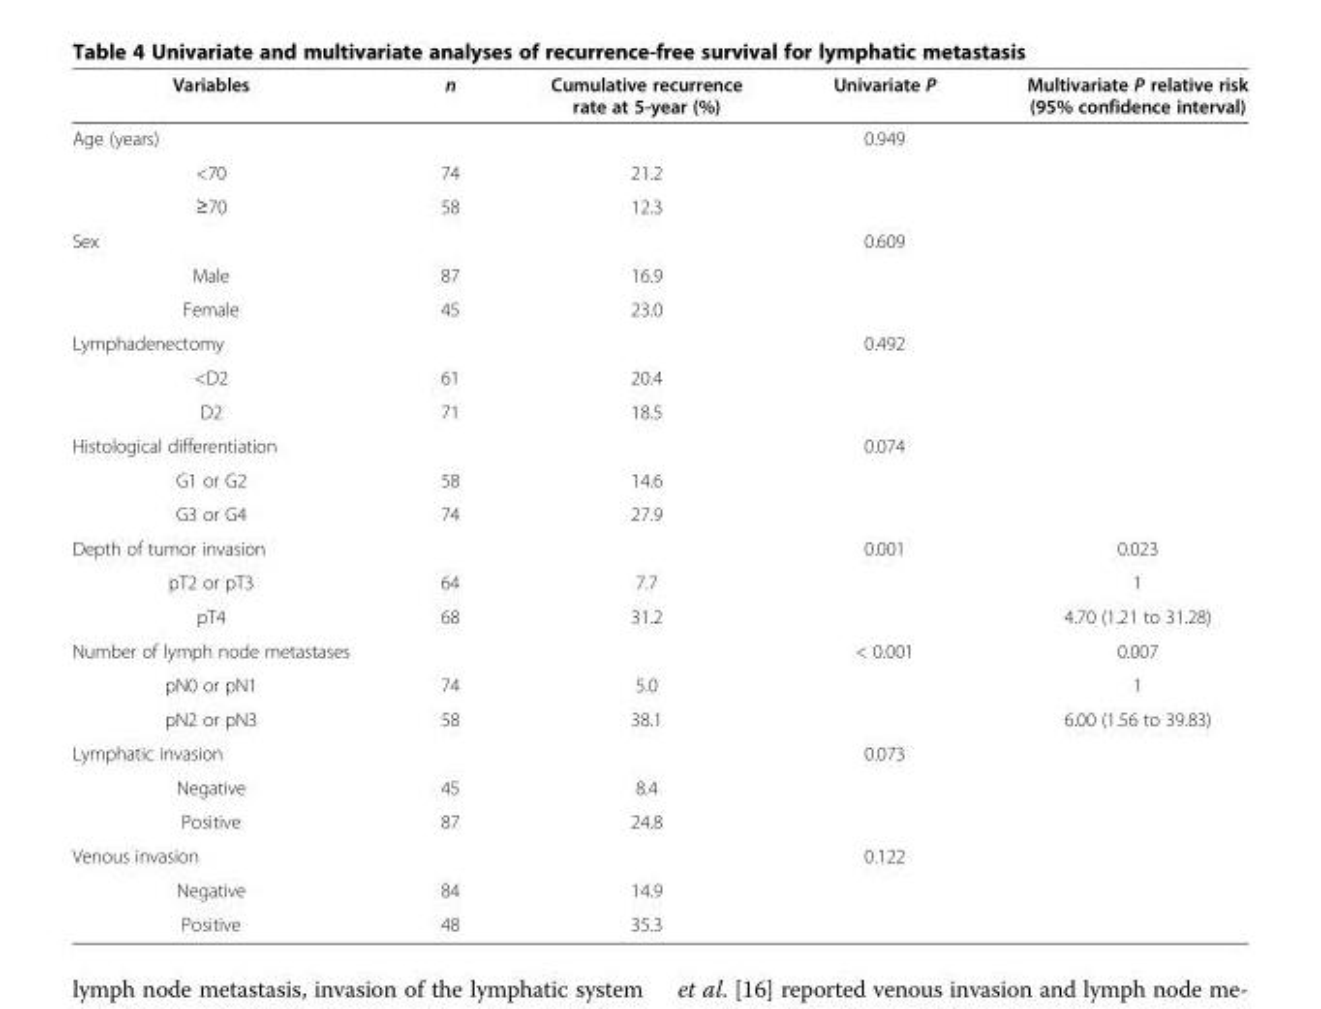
<table><thead><tr><td>Variables</td><td>n</td><td>Cumulative recurrence rate at 5-year (%)</td><td>Univariate P</td><td>Multivariate P relative risk (95% confidence interval)</td></tr></thead><tbody><tr><td>Age (years)</td><td></td><td></td><td>0.949</td><td></td></tr><tr><td>&lt;70</td><td>74</td><td>21.2</td><td></td><td></td></tr><tr><td>≥70</td><td>58</td><td>12.3</td><td></td><td></td></tr><tr><td>Sex</td><td></td><td></td><td>0.609</td><td></td></tr><tr><td>Male</td><td>87</td><td>16.9</td><td></td><td></td></tr><tr><td>Female</td><td>45</td><td>23.0</td><td></td><td></td></tr><tr><td>Lymphadenectomy</td><td></td><td></td><td>0.492</td><td></td></tr><tr><td>&lt;D2</td><td>61</td><td>20.4</td><td></td><td></td></tr><tr><td>D2</td><td>71</td><td>18.5</td><td></td><td></td></tr><tr><td>Histological differentiation</td><td></td><td></td><td>0.074</td><td></td></tr><tr><td>G1 or G2</td><td>58</td><td>14.6</td><td></td><td></td></tr><tr><td>G3 or G4</td><td>74</td><td>27.9</td><td></td><td></td></tr><tr><td>Depth of tumor invasion</td><td></td><td></td><td>0.001</td><td>0.023</td></tr><tr><td>pT2 or pT3</td><td>64</td><td>7.7</td><td></td><td>1</td></tr><tr><td>pT4</td><td>68</td><td>31.2</td><td></td><td>4.70 (1.21 to 31.28)</td></tr><tr><td>Number of lymph node metastases</td><td></td><td></td><td>&lt; 0.001</td><td>0.007</td></tr><tr><td>pN0 or pN1</td><td>74</td><td>5.0</td><td></td><td>1</td></tr><tr><td>pN2 or pN3</td><td>58</td><td>38.1</td><td></td><td>6.00 (1.56 to 39.83)</td></tr><tr><td>Lymphatic invasion</td><td></td><td></td><td>0.073</td><td></td></tr><tr><td>Negative</td><td>45</td><td>8.4</td><td></td><td></td></tr><tr><td>Positive</td><td>87</td><td>24.8</td><td></td><td></td></tr><tr><td>Venous invasion</td><td></td><td></td><td>0.122</td><td></td></tr><tr><td>Negative</td><td>84</td><td>14.9</td><td></td><td></td></tr><tr><td>Positive</td><td>48</td><td>35.3</td><td></td><td></td></tr></tbody></table>